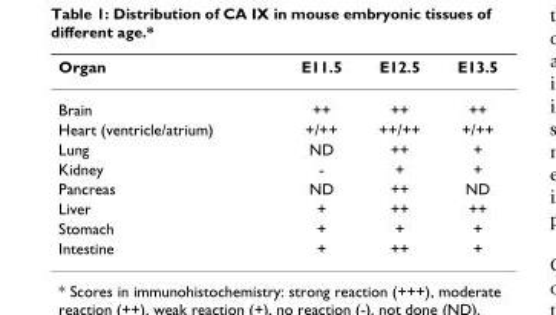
<table><thead><tr><td>Organ</td><td>E11.5</td><td>E12.5</td><td>E13.5</td></tr></thead><tbody><tr><td>Brain</td><td>++</td><td>++</td><td>++</td></tr><tr><td>Heart (ventricle/atrium)</td><td>+/++</td><td>++/++</td><td>+/++</td></tr><tr><td>Lung</td><td>ND</td><td>++</td><td>+</td></tr><tr><td>Kidney</td><td>-</td><td>+</td><td>+</td></tr><tr><td>Pancreas</td><td>ND</td><td>++</td><td>ND</td></tr><tr><td>Liver</td><td>+</td><td>++</td><td>++</td></tr><tr><td>Stomach</td><td>+</td><td>+</td><td>+</td></tr><tr><td>Intestine</td><td>+</td><td>++</td><td>+</td></tr></tbody></table>